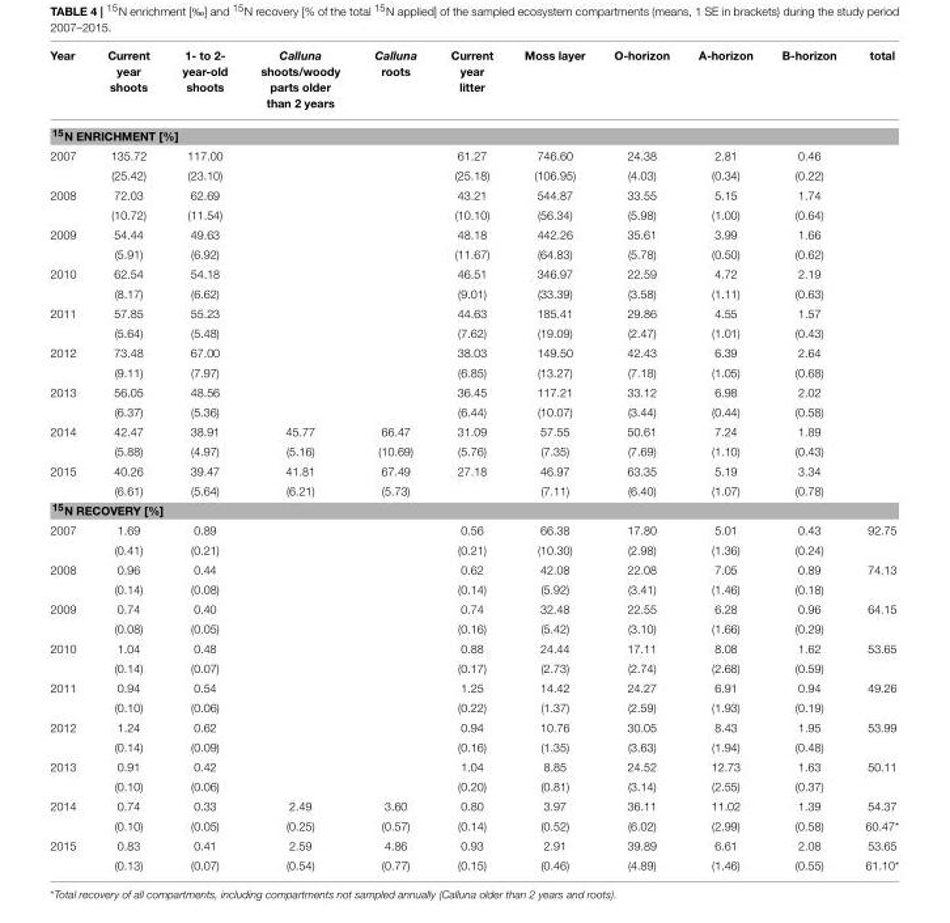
<table><thead><tr><td>Year</td><td>Current year shoots</td><td>1- to 2- year-old shoots</td><td>Calluna shoots/woody parts older than 2 years</td><td>Calluna roots</td><td>Current year litter</td><td>Moss layer</td><td>O-horizon</td><td>A-horizon</td><td>B-horizon</td><td>total</td></tr></thead><tbody><tr><td colspan="11"><sup>15</sup>N ENRICHMENT [%]</td></tr><tr><td rowspan="2">2007</td><td>135.72</td><td>117.00</td><td></td><td></td><td>61.27</td><td>746.60</td><td>24.38</td><td>2.81</td><td>0.46</td><td></td></tr><tr><td>(25.42)</td><td>(23.10)</td><td></td><td></td><td>(25.18)</td><td>(106.95)</td><td>(4.03)</td><td>(0.34)</td><td>(0.22)</td><td></td></tr><tr><td rowspan="2">2008</td><td>72.03</td><td>62.69</td><td></td><td></td><td>43.21</td><td>544.87</td><td>33.55</td><td>5.15</td><td>1.74</td><td></td></tr><tr><td>(10.72)</td><td>(11.54)</td><td></td><td></td><td>(10.10)</td><td>(56.34)</td><td>(5.98)</td><td>(1.00)</td><td>(0.64)</td><td></td></tr><tr><td rowspan="2">2009</td><td>54.44</td><td>49.63</td><td></td><td></td><td>48.18</td><td>442.26</td><td>35.61</td><td>3.99</td><td>1.66</td><td></td></tr><tr><td>(5.91)</td><td>(6.92)</td><td></td><td></td><td>(11.67)</td><td>(64.83)</td><td>(5.78)</td><td>(0.50)</td><td>(0.62)</td><td></td></tr><tr><td rowspan="2">2010</td><td>62.54</td><td>54.18</td><td></td><td></td><td>46.51</td><td>346.97</td><td>22.59</td><td>4.72</td><td>2.19</td><td></td></tr><tr><td>(8.17)</td><td>(6.62)</td><td></td><td></td><td>(9.01)</td><td>(33.39)</td><td>(3.58)</td><td>(1.11)</td><td>(0.63)</td><td></td></tr><tr><td rowspan="2">2011</td><td>57.85</td><td>55.23</td><td></td><td></td><td>44.63</td><td>185.41</td><td>29.86</td><td>4.55</td><td>1.57</td><td></td></tr><tr><td>(5.64)</td><td>(5.48)</td><td></td><td></td><td>(7.62)</td><td>(19.09)</td><td>(2.47)</td><td>(1.01)</td><td>(0.43)</td><td></td></tr><tr><td rowspan="2">2012</td><td>73.48</td><td>67.00</td><td></td><td></td><td>38.03</td><td>149.50</td><td>42.43</td><td>6.39</td><td>2.64</td><td></td></tr><tr><td>(9.11)</td><td>(7.97)</td><td></td><td></td><td>(6.85)</td><td>(13.27)</td><td>(7.18)</td><td>(1.05)</td><td>(0.68)</td><td></td></tr><tr><td rowspan="2">2013</td><td>56.05</td><td>48.56</td><td></td><td></td><td>36.45</td><td>117.21</td><td>33.12</td><td>6.98</td><td>2.02</td><td></td></tr><tr><td>(6.37)</td><td>(5.36)</td><td></td><td></td><td>(6.44)</td><td>(10.07)</td><td>(3.44)</td><td>(0.44)</td><td>(0.58)</td><td></td></tr><tr><td rowspan="2">2014</td><td>42.47</td><td>38.91</td><td>45.77</td><td>66.47</td><td>31.09</td><td>57.55</td><td>50.61</td><td>7.24</td><td>1.89</td><td></td></tr><tr><td>(5.88)</td><td>(4.97)</td><td>(5.16)</td><td>(10.69)</td><td>(5.76)</td><td>(7.35)</td><td>(7.69)</td><td>(1.10)</td><td>(0.43)</td><td></td></tr><tr><td rowspan="2">2015</td><td>40.26</td><td>39.47</td><td>41.81</td><td>67.49</td><td>27.18</td><td>46.97</td><td>63.35</td><td>5.19</td><td>3.34</td><td></td></tr><tr><td>(6.61)</td><td>(5.64)</td><td>(6.21)</td><td>(5.73)</td><td></td><td>(7.11)</td><td>(6.40)</td><td>(1.07)</td><td>(0.78)</td><td></td></tr><tr><td colspan="11"><sup>15</sup>N RECOVERY [%]</td></tr><tr><td rowspan="2">2007</td><td>1.69</td><td>0.89</td><td></td><td></td><td>0.56</td><td>66.38</td><td>17.80</td><td>5.01</td><td>0.43</td><td>92.75</td></tr><tr><td>(0.41)</td><td>(0.21)</td><td></td><td></td><td>(0.21)</td><td>(10.30)</td><td>(2.98)</td><td>(1.36)</td><td>(0.24)</td><td></td></tr><tr><td rowspan="2">2008</td><td>0.96</td><td>0.44</td><td></td><td></td><td>0.62</td><td>42.08</td><td>22.08</td><td>7.05</td><td>0.89</td><td>74.13</td></tr><tr><td>(0.14)</td><td>(0.08)</td><td></td><td></td><td>(0.14)</td><td>(5.92)</td><td>(3.41)</td><td>(1.46)</td><td>(0.18)</td><td></td></tr><tr><td rowspan="2">2009</td><td>0.74</td><td>0.40</td><td></td><td></td><td>0.74</td><td>32.48</td><td>22.55</td><td>6.28</td><td>0.96</td><td>64.15</td></tr><tr><td>(0.08)</td><td>(0.05)</td><td></td><td></td><td>(0.16)</td><td>(5.42)</td><td>(3.10)</td><td>(1.66)</td><td>(0.29)</td><td></td></tr><tr><td rowspan="2">2010</td><td>1.04</td><td>0.48</td><td></td><td></td><td>0.88</td><td>24.44</td><td>17.11</td><td>8.08</td><td>1.62</td><td>53.65</td></tr><tr><td>(0.14)</td><td>(0.07)</td><td></td><td></td><td>(0.17)</td><td>(2.73)</td><td>(2.74)</td><td>(2.68)</td><td>(0.59)</td><td></td></tr><tr><td rowspan="2">2011</td><td>0.94</td><td>0.54</td><td></td><td></td><td>1.25</td><td>14.42</td><td>24.27</td><td>6.91</td><td>0.94</td><td>49.26</td></tr><tr><td>(0.10)</td><td>(0.06)</td><td></td><td></td><td>(0.22)</td><td>(1.37)</td><td>(2.59)</td><td>(1.93)</td><td>(0.19)</td><td></td></tr><tr><td rowspan="2">2012</td><td>1.24</td><td>0.62</td><td></td><td></td><td>0.94</td><td>10.76</td><td>30.05</td><td>8.43</td><td>1.95</td><td>53.99</td></tr><tr><td>(0.14)</td><td>(0.09)</td><td></td><td></td><td>(0.16)</td><td>(1.35)</td><td>(3.63)</td><td>(1.94)</td><td>(0.48)</td><td></td></tr><tr><td rowspan="2">2013</td><td>0.91</td><td>0.42</td><td></td><td></td><td>1.04</td><td>8.85</td><td>24.52</td><td>12.73</td><td>1.63</td><td>50.11</td></tr><tr><td>(0.10)</td><td>(0.06)</td><td></td><td></td><td>(0.20)</td><td>(0.81)</td><td>(3.14)</td><td>(2.55)</td><td>(0.37)</td><td></td></tr><tr><td rowspan="2">2014</td><td>0.74</td><td>0.33</td><td>2.49</td><td>3.60</td><td>0.80</td><td>3.97</td><td>36.11</td><td>11.02</td><td>1.39</td><td>54.37</td></tr><tr><td>(0.10)</td><td>(0.05)</td><td>(0.25)</td><td>(0.57)</td><td>(0.14)</td><td>(0.52)</td><td>(6.02)</td><td>(2.99)</td><td>(0.58)</td><td>60.47*</td></tr><tr><td rowspan="2">2015</td><td>0.83</td><td>0.41</td><td>2.59</td><td>4.86</td><td>0.93</td><td>2.91</td><td>39.89</td><td>6.61</td><td>2.08</td><td>53.65</td></tr><tr><td>(0.13)</td><td>(0.07)</td><td>(0.54)</td><td>(0.77)</td><td>(0.15)</td><td>(0.46)</td><td>(4.89)</td><td>(1.46)</td><td>(0.55)</td><td>61.10*</td></tr></tbody></table>